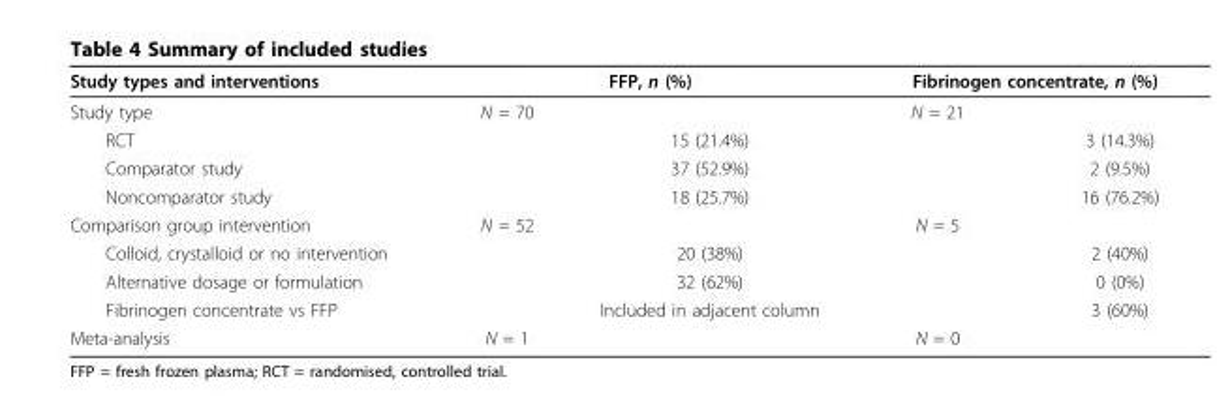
<table><thead><tr><td rowspan="2">Study types and interventions Study type</td><td colspan="2">FFP, n (%)</td><td colspan="2">Fibrinogen concentrate, n (%)</td></tr><tr><td>N = 70</td><td></td><td>N = 21</td><td></td></tr></thead><tbody><tr><td>RCT</td><td></td><td>15 (21.4%)</td><td></td><td>3 (14.3%)</td></tr><tr><td>Comparator study</td><td></td><td>37 (52.9%)</td><td></td><td>2 (9.5%)</td></tr><tr><td>Noncomparator study</td><td></td><td>18 (25.7%)</td><td></td><td>16 (76.2%)</td></tr><tr><td>Comparison group intervention</td><td>N = 52</td><td></td><td>N = 5</td><td></td></tr><tr><td>Colloid, crystalloid or no intervention</td><td></td><td>20 (38%)</td><td></td><td>2 (40%)</td></tr><tr><td>Alternative dosage or formulation</td><td></td><td>32 (62%)</td><td></td><td>0 (0%)</td></tr><tr><td>Fibrinogen concentrate vs FFP</td><td></td><td>Included in adjacent column</td><td></td><td>3 (60%)</td></tr><tr><td>Meta-analysis</td><td>N = 1</td><td></td><td>N = 0</td><td></td></tr></tbody></table>